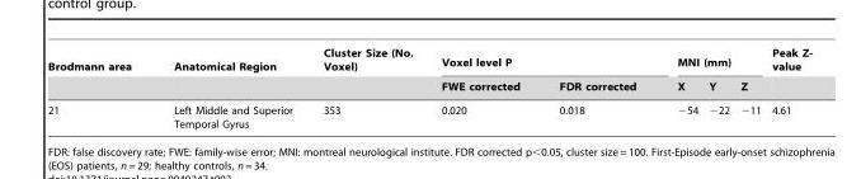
<table><thead><tr><td rowspan="2">Brodmann area</td><td rowspan="2">Anatomical Region</td><td rowspan="2">Cluster Size (No. Voxel)</td><td colspan="2">Voxel level P</td><td colspan="3">MNI (mm)</td><td rowspan="2">Peak Z- value</td></tr><tr><td>FWE corrected</td><td>FDR corrected</td><td>X</td><td>Y</td><td>Z</td></tr></thead><tbody><tr><td>21</td><td>Left Middle and Superior Temporal Gyrus</td><td>353</td><td>0.020</td><td>0.018</td><td>−54</td><td>−22</td><td>−11</td><td>4.61</td></tr></tbody></table>